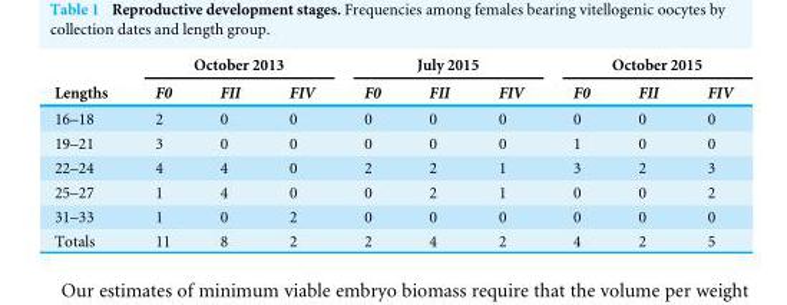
<table><thead><tr><td rowspan="2">Lengths</td><td colspan="3">October 2013</td><td colspan="3">July 2015</td><td colspan="3">October 2015</td></tr><tr><td>F0</td><td>FII</td><td>FIV</td><td>F0</td><td>FII</td><td>FIV</td><td>F0</td><td>FII</td><td>FIV</td></tr></thead><tbody><tr><td>16–18</td><td>2</td><td>0</td><td>0</td><td>0</td><td>0</td><td>0</td><td>0</td><td>0</td><td>0</td></tr><tr><td>19–21</td><td>3</td><td>0</td><td>0</td><td>0</td><td>0</td><td>0</td><td>1</td><td>0</td><td>0</td></tr><tr><td>22–24</td><td>4</td><td>4</td><td>0</td><td>2</td><td>2</td><td>1</td><td>3</td><td>2</td><td>3</td></tr><tr><td>25–27</td><td>1</td><td>4</td><td>0</td><td>0</td><td>2</td><td>1</td><td>0</td><td>0</td><td>2</td></tr><tr><td>31–33</td><td>1</td><td>0</td><td>2</td><td>0</td><td>0</td><td>0</td><td>0</td><td>0</td><td>0</td></tr><tr><td>Totals</td><td>11</td><td>8</td><td>2</td><td>2</td><td>4</td><td>2</td><td>4</td><td>2</td><td>5</td></tr></tbody></table>